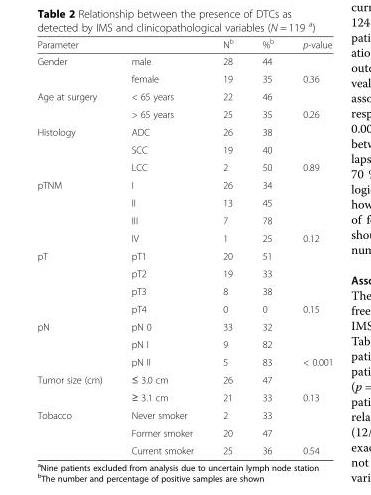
<table><thead><tr><td>Parameter</td><td></td><td>N<sup>b</sup></td><td>%<sup>b</sup></td><td>p-value</td></tr></thead><tbody><tr><td rowspan="2">Gender</td><td>male</td><td>28</td><td>44</td><td></td></tr><tr><td>female</td><td>19</td><td>35</td><td>0.36</td></tr><tr><td rowspan="2">Age at surgery</td><td>&lt; 65 years</td><td>22</td><td>46</td><td></td></tr><tr><td>&gt; 65 years</td><td>25</td><td>35</td><td>0.26</td></tr><tr><td rowspan="3">Histology</td><td>ADC</td><td>26</td><td>38</td><td></td></tr><tr><td>SCC</td><td>19</td><td>40</td><td></td></tr><tr><td>LCC</td><td>2</td><td>50</td><td>0.89</td></tr><tr><td rowspan="4">pTNM</td><td>I</td><td>26</td><td>34</td><td></td></tr><tr><td>II</td><td>13</td><td>45</td><td></td></tr><tr><td>III</td><td>7</td><td>78</td><td></td></tr><tr><td>IV</td><td>1</td><td>25</td><td>0.12</td></tr><tr><td rowspan="4">pT</td><td>pT1</td><td>20</td><td>51</td><td></td></tr><tr><td>pT2</td><td>19</td><td>33</td><td></td></tr><tr><td>pT3</td><td>8</td><td>38</td><td></td></tr><tr><td>pT4</td><td>0</td><td>0</td><td>0.15</td></tr><tr><td rowspan="3">pN</td><td>pN 0</td><td>33</td><td>32</td><td></td></tr><tr><td>pN I</td><td>9</td><td>82</td><td></td></tr><tr><td>pN II</td><td>5</td><td>83</td><td>&lt; 0.001</td></tr><tr><td rowspan="2">Tumor size (cm)</td><td>≤ 3.0 cm</td><td>26</td><td>47</td><td></td></tr><tr><td>≥ 3.1 cm</td><td>21</td><td>33</td><td>0.13</td></tr><tr><td rowspan="3">Tobacco</td><td>Never smoker</td><td>2</td><td>33</td><td></td></tr><tr><td>Former smoker</td><td>20</td><td>47</td><td></td></tr><tr><td>Current smoker</td><td>25</td><td>36</td><td>0.54</td></tr></tbody></table>